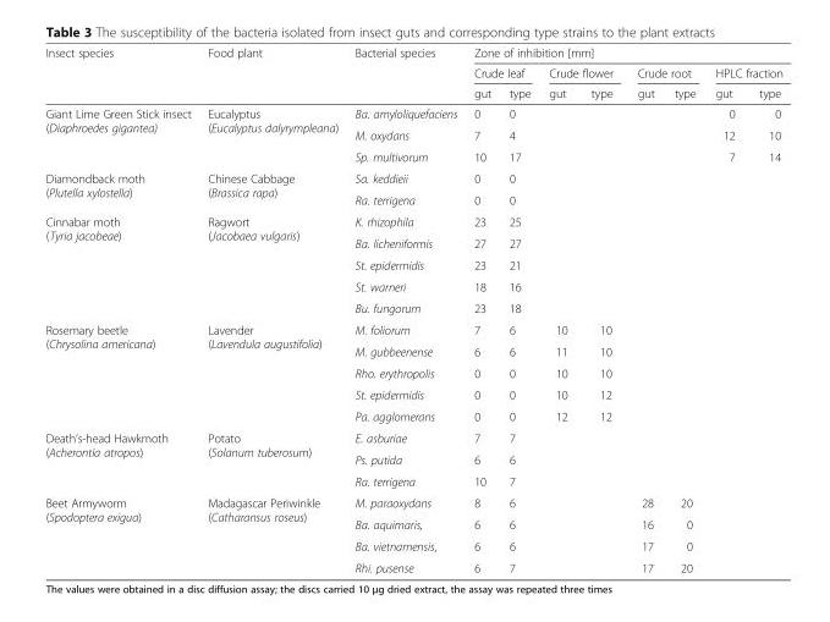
<table><thead><tr><td rowspan="3">Insect species</td><td rowspan="3">Food plant</td><td rowspan="3">Bacterial species</td><td colspan="8">Zone of inhibition [mm]</td></tr><tr><td colspan="2">Crude leaf</td><td colspan="2">Crude flower</td><td colspan="2">Crude root</td><td colspan="2">HPLC fraction</td></tr><tr><td>gut</td><td>type</td><td>gut</td><td>type</td><td>gut</td><td>type</td><td>gut</td><td>type</td></tr></thead><tbody><tr><td rowspan="3">Giant Lime Green Stick insect (Diaphroedes gigantea)</td><td rowspan="3">Eucalyptus (Eucalyptus dalyrympleana)</td><td>Ba. amyloliquefaciens</td><td>0</td><td>0</td><td></td><td></td><td></td><td></td><td>0</td><td>0</td></tr><tr><td>M. oxydans</td><td>7</td><td>4</td><td></td><td></td><td></td><td></td><td>12</td><td>10</td></tr><tr><td>Sp. multivorum</td><td>10</td><td>17</td><td></td><td></td><td></td><td></td><td>7</td><td>14</td></tr><tr><td rowspan="2">Diamondback moth (Plutella xylostella)</td><td rowspan="2">Chinese Cabbage (Brassica rapa)</td><td>Sa. keddieii</td><td>0</td><td>0</td><td></td><td></td><td></td><td></td><td></td><td></td></tr><tr><td>Ra. terrigena</td><td>0</td><td>0</td><td></td><td></td><td></td><td></td><td></td><td></td></tr><tr><td rowspan="5">Cinnabar moth (Tyria jacobeae)</td><td rowspan="5">Ragwort (Jacobaea vulgaris)</td><td>K. rhizophila</td><td>23</td><td>25</td><td></td><td></td><td></td><td></td><td></td><td></td></tr><tr><td>Ba. licheniformis</td><td>27</td><td>27</td><td></td><td></td><td></td><td></td><td></td><td></td></tr><tr><td>St. epidermidis</td><td>23</td><td>21</td><td></td><td></td><td></td><td></td><td></td><td></td></tr><tr><td>St. warneri</td><td>18</td><td>16</td><td></td><td></td><td></td><td></td><td></td><td></td></tr><tr><td>Bu. fungorum</td><td>23</td><td>18</td><td></td><td></td><td></td><td></td><td></td><td></td></tr><tr><td rowspan="5">Rosemary beetle (Chrysolina americana)</td><td rowspan="5">Lavender (Lavendula augustifolia)</td><td>M. foliorum</td><td>7</td><td>6</td><td>10</td><td>10</td><td></td><td></td><td></td><td></td></tr><tr><td>M. gubbeenense</td><td>6</td><td>6</td><td>11</td><td>10</td><td></td><td></td><td></td><td></td></tr><tr><td>Rho. erythropolis</td><td>0</td><td>0</td><td>10</td><td>10</td><td></td><td></td><td></td><td></td></tr><tr><td>St. epidermidis</td><td>0</td><td>0</td><td>10</td><td>12</td><td></td><td></td><td></td><td></td></tr><tr><td>Pa. agglomerans</td><td>0</td><td>0</td><td>12</td><td>12</td><td></td><td></td><td></td><td></td></tr><tr><td rowspan="3">Death’s-head Hawkmoth (Acherontia atropos)</td><td rowspan="3">Potato (Solanum tuberosum)</td><td>E. asburiae</td><td>7</td><td>7</td><td></td><td></td><td></td><td></td><td></td><td></td></tr><tr><td>Ps. putida</td><td>6</td><td>6</td><td></td><td></td><td></td><td></td><td></td><td></td></tr><tr><td>Ra. terrigena</td><td>10</td><td>7</td><td></td><td></td><td></td><td></td><td></td><td></td></tr><tr><td rowspan="4">Beet Armyworm (Spodoptera exigua)</td><td rowspan="4">Madagascar Periwinkle (Catharansus roseus)</td><td>M. paraoxydans</td><td>8</td><td>6</td><td></td><td></td><td>28</td><td>20</td><td></td><td></td></tr><tr><td>Ba. aquimaris,</td><td>6</td><td>6</td><td></td><td></td><td>16</td><td>0</td><td></td><td></td></tr><tr><td>Ba. vietnamensis,</td><td>6</td><td>6</td><td></td><td></td><td>17</td><td>0</td><td></td><td></td></tr><tr><td>Rhi. pusense</td><td>6</td><td>7</td><td></td><td></td><td>17</td><td>20</td><td></td><td></td></tr></tbody></table>